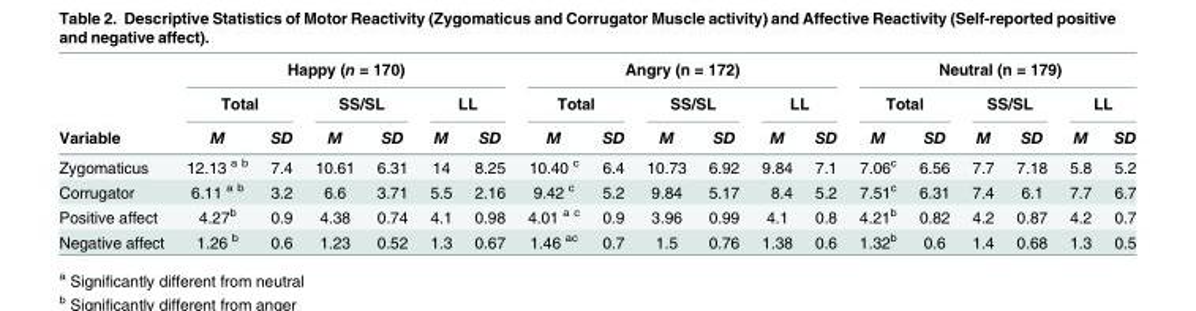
<table><thead><tr><td rowspan="3">Variable</td><td colspan="6">Happy (n = 170)</td><td colspan="6">Angry (n = 172)</td><td colspan="6">Neutral (n = 179)</td></tr><tr><td colspan="2">Total</td><td colspan="2">SS/SL</td><td colspan="2">LL</td><td colspan="2">Total</td><td colspan="2">SS/SL</td><td colspan="2">LL</td><td colspan="2">Total</td><td colspan="2">SS/SL</td><td colspan="2">LL</td></tr><tr><td>M</td><td>SD</td><td>M</td><td>SD</td><td>M</td><td>SD</td><td>M</td><td>SD</td><td>M</td><td>SD</td><td>M</td><td>SD</td><td>M</td><td>SD</td><td>M</td><td>SD</td><td>M</td><td>SD</td></tr></thead><tbody><tr><td>Zygomaticus</td><td>12.13 <sup>a b</sup></td><td>7.4</td><td>10.61</td><td>6.31</td><td>14</td><td>8.25</td><td>10.40 <sup>c</sup></td><td>6.4</td><td>10.73</td><td>6.92</td><td>9.84</td><td>7.1</td><td>7.06<sup>c</sup></td><td>6.56</td><td>7.7</td><td>7.18</td><td>5.8</td><td>5.2</td></tr><tr><td>Corrugator</td><td>6.11 <sup>a b</sup></td><td>3.2</td><td>6.6</td><td>3.71</td><td>5.5</td><td>2.16</td><td>9.42 <sup>c</sup></td><td>5.2</td><td>9.84</td><td>5.17</td><td>8.4</td><td>5.2</td><td>7.51<sup>c</sup></td><td>6.31</td><td>7.4</td><td>6.1</td><td>7.7</td><td>6.7</td></tr><tr><td>Positive affect</td><td>4.27<sup>b</sup></td><td>0.9</td><td>4.38</td><td>0.74</td><td>4.1</td><td>0.98</td><td>4.01 <sup>a c</sup></td><td>0.9</td><td>3.96</td><td>0.99</td><td>4.1</td><td>0.8</td><td>4.21<sup>b</sup></td><td>0.82</td><td>4.2</td><td>0.87</td><td>4.2</td><td>0.7</td></tr><tr><td>Negative affect</td><td>1.26 <sup>b</sup></td><td>0.6</td><td>1.23</td><td>0.52</td><td>1.3</td><td>0.67</td><td>1.46 <sup>ac</sup></td><td>0.7</td><td>1.5</td><td>0.76</td><td>1.38</td><td>0.6</td><td>1.32<sup>b</sup></td><td>0.6</td><td>1.4</td><td>0.68</td><td>1.3</td><td>0.5</td></tr></tbody></table>